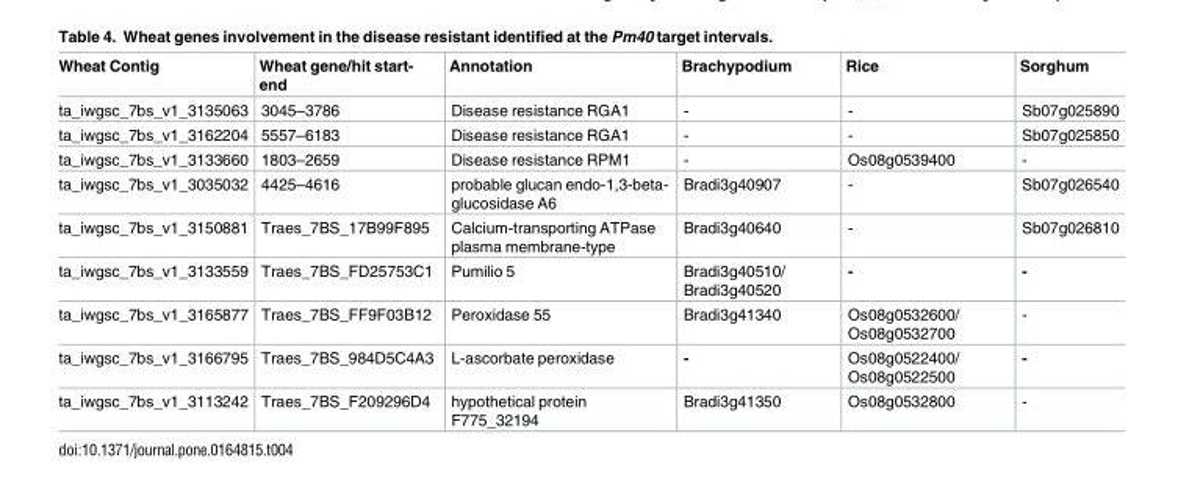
<table><thead><tr><td>Wheat Contig</td><td>Wheat gene/hit start- end</td><td>Annotation</td><td>Brachypodium</td><td>Rice</td><td>Sorghum</td></tr></thead><tbody><tr><td>ta_iwgsc_7bs_v1_3135063</td><td>3045–3786</td><td>Disease resistance RGA1</td><td>-</td><td>-</td><td>Sb07g025890</td></tr><tr><td>ta_iwgsc_7bs_v1_3162204</td><td>5557–6183</td><td>Disease resistance RGA1</td><td>-</td><td>-</td><td>Sb07g025850</td></tr><tr><td>ta_iwgsc_7bs_v1_3133660</td><td>1803–2659</td><td>Disease resistance RPM1</td><td>-</td><td>Os08g0539400</td><td>-</td></tr><tr><td>ta_iwgsc_7bs_v1_3035032</td><td>4425–4616</td><td>probable glucan endo-1,3-beta- glucosidase A6</td><td>Bradi3g40907</td><td>-</td><td>Sb07g026540</td></tr><tr><td>ta_iwgsc_7bs_v1_3150881</td><td>Traes_7BS_17B99F895</td><td>Calcium-transporting ATPase plasma membrane-type</td><td>Bradi3g40640</td><td>-</td><td>Sb07g026810</td></tr><tr><td>ta_iwgsc_7bs_v1_3133559</td><td>Traes_7BS_FD25753C1</td><td>Pumilio 5</td><td>Bradi3g40510/ Bradi3g40520</td><td>-</td><td>-</td></tr><tr><td>ta_iwgsc_7bs_v1_3165877</td><td>Traes_7BS_FF9F03B12</td><td>Peroxidase 55</td><td>Bradi3g41340</td><td>Os08g0532600/ Os08g0532700</td><td>-</td></tr><tr><td>ta_iwgsc_7bs_v1_3166795</td><td>Traes_7BS_984D5C4A3</td><td>L-ascorbate peroxidase</td><td>-</td><td>Os08g0522400/ Os08g0522500</td><td>-</td></tr><tr><td>ta_iwgsc_7bs_v1_3113242</td><td>Traes_7BS_F209296D4</td><td>hypothetical protein F775_32194</td><td>Bradi3g41350</td><td>Os08g0532800</td><td>-</td></tr></tbody></table>